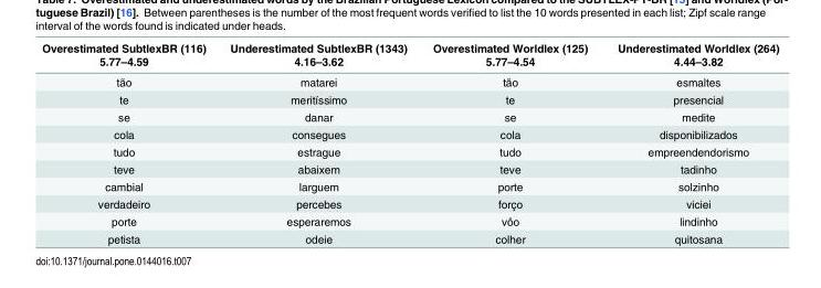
<table><thead><tr><td>Overestimated SubtlexBR (116) 5.77–4.59</td><td>Underestimated SubtlexBR (1343) 4.16–3.62</td><td>Overestimated Worldlex (125) 5.77–4.54</td><td>Underestimated Worldlex (264) 4.44–3.82</td></tr></thead><tbody><tr><td>tão</td><td>matarei</td><td>tão</td><td>esmaltes</td></tr><tr><td>te</td><td>meritíssimo</td><td>te</td><td>presencial</td></tr><tr><td>se</td><td>danar</td><td>se</td><td>medite</td></tr><tr><td>cola</td><td>consegues</td><td>cola</td><td>disponibilizados</td></tr><tr><td>tudo</td><td>estrague</td><td>tudo</td><td>empreendendorismo</td></tr><tr><td>teve</td><td>abaixem</td><td>teve</td><td>tadinho</td></tr><tr><td>cambial</td><td>larguem</td><td>porte</td><td>solzinho</td></tr><tr><td>verdadeiro</td><td>percebes</td><td>forço</td><td>viciei</td></tr><tr><td>porte</td><td>esperaremos</td><td>vôo</td><td>lindinho</td></tr><tr><td>petista</td><td>odeie</td><td>colher</td><td>quitosana</td></tr></tbody></table>